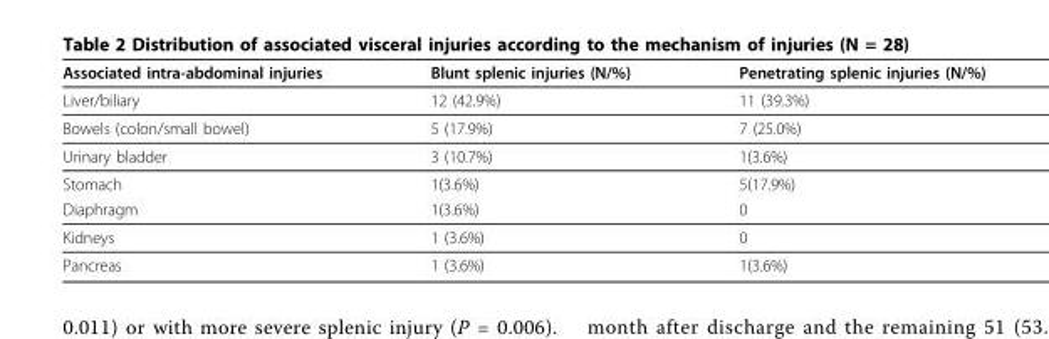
<table><thead><tr><td>Associated intra-abdominal injuries</td><td>Blunt splenic injuries (N/%)</td><td>Penetrating splenic injuries (N/%)</td></tr></thead><tbody><tr><td>Liver/biliary</td><td>12 (42.9%)</td><td>11 (39.3%)</td></tr><tr><td>Bowels (colon/small bowel)</td><td>5 (17.9%)</td><td>7 (25.0%)</td></tr><tr><td>Urinary bladder</td><td>3 (10.7%)</td><td>1(3.6%)</td></tr><tr><td>Stomach</td><td>1(3.6%)</td><td>5(17.9%)</td></tr><tr><td>Diaphragm</td><td>1(3.6%)</td><td>0</td></tr><tr><td>Kidneys</td><td>1 (3.6%)</td><td>0</td></tr><tr><td>Pancreas</td><td>1 (3.6%)</td><td>1(3.6%)</td></tr></tbody></table>